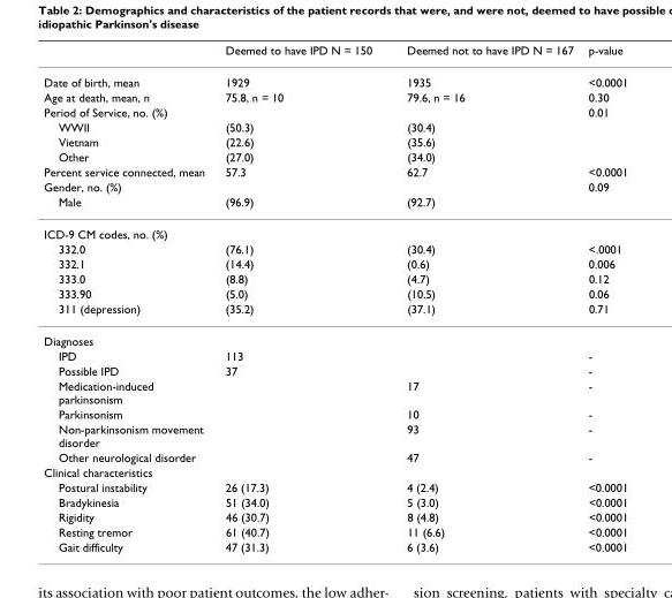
<table><thead><tr><td></td><td>Deemed to have IPD N = 150</td><td>Deemed not to have IPD N = 167</td><td>p-value</td></tr></thead><tbody><tr><td>Date of birth, mean</td><td>1929</td><td>1935</td><td>&lt;0.0001</td></tr><tr><td>Age at death, mean, n</td><td>75.8, n = 10</td><td>79.6, n = 16</td><td>0.30</td></tr><tr><td>Period of Service, no. (%)</td><td></td><td></td><td>0.01</td></tr><tr><td>WWII</td><td>(50.3)</td><td>(30.4)</td><td></td></tr><tr><td>Vietnam</td><td>(22.6)</td><td>(35.6)</td><td></td></tr><tr><td>Other</td><td>(27.0)</td><td>(34.0)</td><td></td></tr><tr><td>Percent service connected, mean</td><td>57.3</td><td>62.7</td><td>&lt;0.0001</td></tr><tr><td>Gender, no. (%)</td><td></td><td></td><td>0.09</td></tr><tr><td>Male</td><td>(96.9)</td><td>(92.7)</td><td></td></tr><tr><td colspan="4">ICD-9 CM codes, no. (%)</td></tr><tr><td>332.0</td><td>(76.1)</td><td>(30.4)</td><td>&lt;.0001</td></tr><tr><td>332.1</td><td>(14.4)</td><td>(0.6)</td><td>0.006</td></tr><tr><td>333.0</td><td>(8.8)</td><td>(4.7)</td><td>0.12</td></tr><tr><td>333.90</td><td>(5.0)</td><td>(10.5)</td><td>0.06</td></tr><tr><td>311 (depression)</td><td>(35.2)</td><td>(37.1)</td><td>0.71</td></tr><tr><td colspan="4">Diagnoses</td></tr><tr><td>IPD</td><td>113</td><td></td><td>-</td></tr><tr><td>Possible IPD</td><td>37</td><td></td><td>-</td></tr><tr><td>Medication-induced parkinsonism</td><td></td><td>17</td><td>-</td></tr><tr><td>Parkinsonism</td><td></td><td>10</td><td>-</td></tr><tr><td>Non-parkinsonism movement disorder</td><td></td><td>93</td><td>-</td></tr><tr><td>Other neurological disorder</td><td></td><td>47</td><td>-</td></tr><tr><td colspan="4">Clinical characteristics</td></tr><tr><td>Postural instability</td><td>26 (17.3)</td><td>4 (2.4)</td><td>&lt;0.0001</td></tr><tr><td>Bradykinesia</td><td>51 (34.0)</td><td>5 (3.0)</td><td>&lt;0.0001</td></tr><tr><td>Rigidity</td><td>46 (30.7)</td><td>8 (4.8)</td><td>&lt;0.0001</td></tr><tr><td>Resting tremor</td><td>61 (40.7)</td><td>11 (6.6)</td><td>&lt;0.0001</td></tr><tr><td>Gait difficulty</td><td>47 (31.3)</td><td>6 (3.6)</td><td>&lt;0.0001</td></tr></tbody></table>